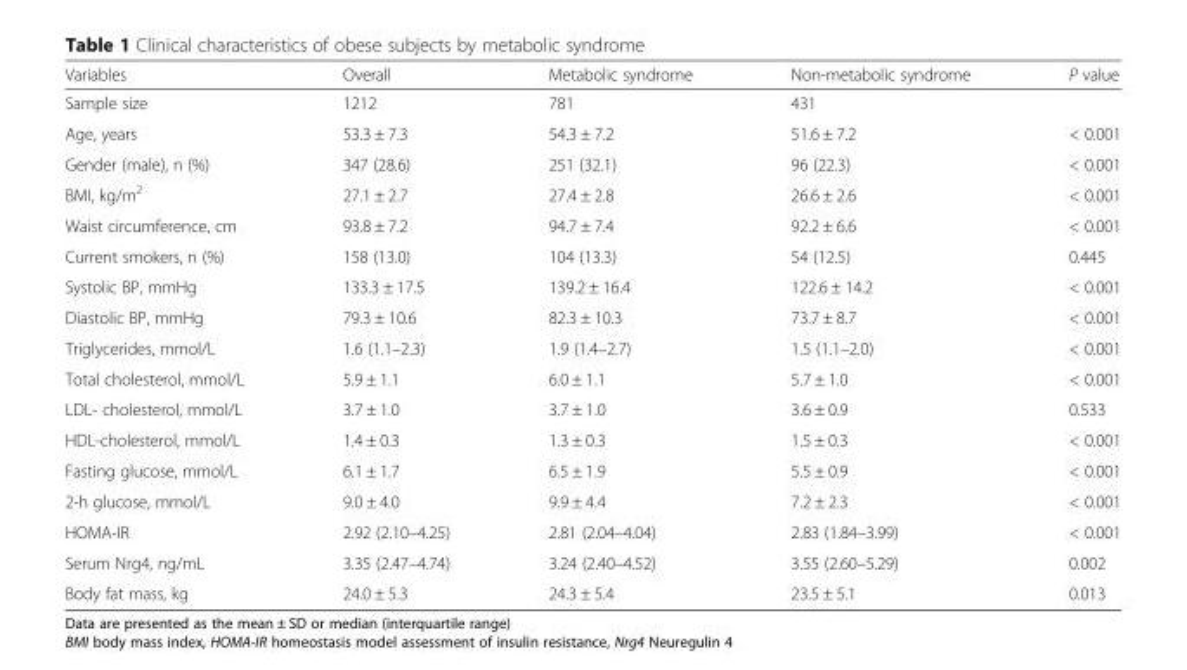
<table><thead><tr><td>Variables</td><td>Overall</td><td>Metabolic syndrome</td><td>Non-metabolic syndrome</td><td>P value</td></tr></thead><tbody><tr><td>Sample size</td><td>1212</td><td>781</td><td>431</td><td></td></tr><tr><td>Age, years</td><td>53.3 ± 7.3</td><td>54.3 ± 7.2</td><td>51.6 ± 7.2</td><td>&lt; 0.001</td></tr><tr><td>Gender (male), n (%)</td><td>347 (28.6)</td><td>251 (32.1)</td><td>96 (22.3)</td><td>&lt; 0.001</td></tr><tr><td>BMI, kg/m<sup>2</sup></td><td>27.1 ± 2.7</td><td>27.4 ± 2.8</td><td>26.6 ± 2.6</td><td>&lt; 0.001</td></tr><tr><td>Waist circumference, cm</td><td>93.8 ± 7.2</td><td>94.7 ± 7.4</td><td>92.2 ± 6.6</td><td>&lt; 0.001</td></tr><tr><td>Current smokers, n (%)</td><td>158 (13.0)</td><td>104 (13.3)</td><td>54 (12.5)</td><td>0.445</td></tr><tr><td>Systolic BP, mmHg</td><td>133.3 ± 17.5</td><td>139.2 ± 16.4</td><td>122.6 ± 14.2</td><td>&lt; 0.001</td></tr><tr><td>Diastolic BP, mmHg</td><td>79.3 ± 10.6</td><td>82.3 ± 10.3</td><td>73.7 ± 8.7</td><td>&lt; 0.001</td></tr><tr><td>Triglycerides, mmol/L</td><td>1.6 (1.1–2.3)</td><td>1.9 (1.4–2.7)</td><td>1.5 (1.1–2.0)</td><td>&lt; 0.001</td></tr><tr><td>Total cholesterol, mmol/L</td><td>5.9 ± 1.1</td><td>6.0 ± 1.1</td><td>5.7 ± 1.0</td><td>&lt; 0.001</td></tr><tr><td>LDL- cholesterol, mmol/L</td><td>3.7 ± 1.0</td><td>3.7 ± 1.0</td><td>3.6 ± 0.9</td><td>0.533</td></tr><tr><td>HDL-cholesterol, mmol/L</td><td>1.4 ± 0.3</td><td>1.3 ± 0.3</td><td>1.5 ± 0.3</td><td>&lt; 0.001</td></tr><tr><td>Fasting glucose, mmol/L</td><td>6.1 ± 1.7</td><td>6.5 ± 1.9</td><td>5.5 ± 0.9</td><td>&lt; 0.001</td></tr><tr><td>2-h glucose, mmol/L</td><td>9.0 ± 4.0</td><td>9.9 ± 4.4</td><td>7.2 ± 2.3</td><td>&lt; 0.001</td></tr><tr><td>HOMA-IR</td><td>2.92 (2.10–4.25)</td><td>2.81 (2.04–4.04)</td><td>2.83 (1.84–3.99)</td><td>&lt; 0.001</td></tr><tr><td>Serum Nrg4, ng/mL</td><td>3.35 (2.47–4.74)</td><td>3.24 (2.40–4.52)</td><td>3.55 (2.60–5.29)</td><td>0.002</td></tr><tr><td>Body fat mass, kg</td><td>24.0 ± 5.3</td><td>24.3 ± 5.4</td><td>23.5 ± 5.1</td><td>0.013</td></tr></tbody></table>